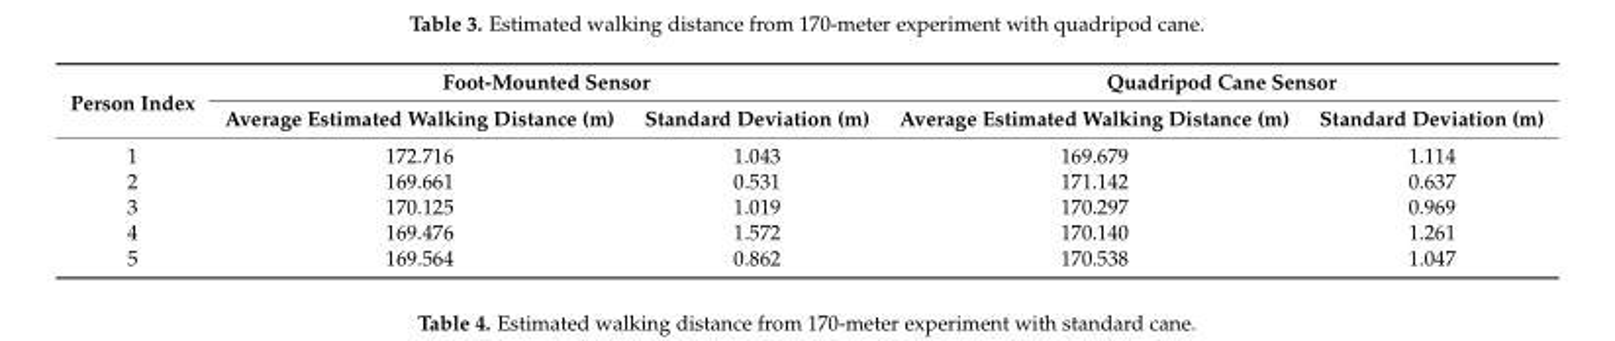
<table><thead><tr><td rowspan="2">Person Index</td><td colspan="2">Foot-Mounted Sensor</td><td colspan="2">Quadripod Cane Sensor</td></tr><tr><td>Average Estimated Walking Distance (m)</td><td>Standard Deviation (m)</td><td>Average Estimated Walking Distance (m)</td><td>Standard Deviation (m)</td></tr></thead><tbody><tr><td>1</td><td>172.716</td><td>1.043</td><td>169.679</td><td>1.114</td></tr><tr><td>2</td><td>169.661</td><td>0.531</td><td>171.142</td><td>0.637</td></tr><tr><td>3</td><td>170.125</td><td>1.019</td><td>170.297</td><td>0.969</td></tr><tr><td>4</td><td>169.476</td><td>1.572</td><td>170.140</td><td>1.261</td></tr><tr><td>5</td><td>169.564</td><td>0.862</td><td>170.538</td><td>1.047</td></tr></tbody></table>